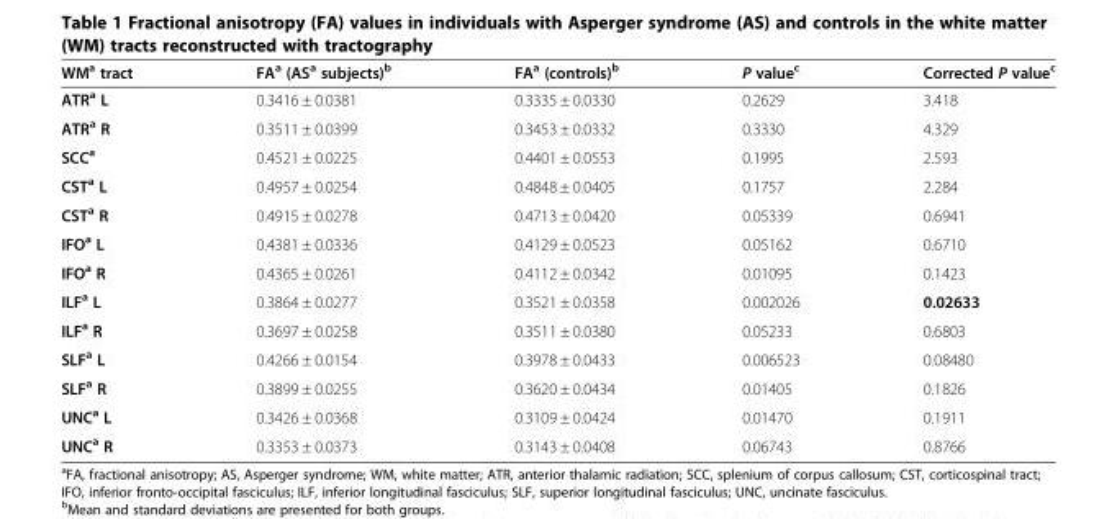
<table><thead><tr><td>WM<sup>a</sup> tract</td><td>FA<sup>a</sup> (AS<sup>a</sup> subjects)<sup>b</sup></td><td>FA<sup>a</sup> (controls)<sup>b</sup></td><td>P value<sup>c</sup></td><td>Corrected P value<sup>c</sup></td></tr></thead><tbody><tr><td>ATR<sup>a</sup> L</td><td>0.3416 ± 0.0381</td><td>0.3335 ± 0.0330</td><td>0.2629</td><td>3.418</td></tr><tr><td>ATR<sup>a</sup> R</td><td>0.3511 ± 0.0399</td><td>0.3453 ± 0.0332</td><td>0.3330</td><td>4.329</td></tr><tr><td>SCC<sup>a</sup></td><td>0.4521 ± 0.0225</td><td>0.4401 ± 0.0553</td><td>0.1995</td><td>2.593</td></tr><tr><td>CST<sup>a</sup> L</td><td>0.4957 ± 0.0254</td><td>0.4848 ± 0.0405</td><td>0.1757</td><td>2.284</td></tr><tr><td>CST<sup>a</sup> R</td><td>0.4915 ± 0.0278</td><td>0.4713 ± 0.0420</td><td>0.05339</td><td>0.6941</td></tr><tr><td>IFO<sup>a</sup> L</td><td>0.4381 ± 0.0336</td><td>0.4129 ± 0.0523</td><td>0.05162</td><td>0.6710</td></tr><tr><td>IFO<sup>a</sup> R</td><td>0.4365 ± 0.0261</td><td>0.4112 ± 0.0342</td><td>0.01095</td><td>0.1423</td></tr><tr><td>ILF<sup>a</sup> L</td><td>0.3864 ± 0.0277</td><td>0.3521 ± 0.0358</td><td>0.002026</td><td>0.02633</td></tr><tr><td>ILF<sup>a</sup> R</td><td>0.3697 ± 0.0258</td><td>0.3511 ± 0.0380</td><td>0.05233</td><td>0.6803</td></tr><tr><td>SLF<sup>a</sup> L</td><td>0.4266 ± 0.0154</td><td>0.3978 ± 0.0433</td><td>0.006523</td><td>0.08480</td></tr><tr><td>SLF<sup>a</sup> R</td><td>0.3899 ± 0.0255</td><td>0.3620 ± 0.0434</td><td>0.01405</td><td>0.1826</td></tr><tr><td>UNC<sup>a</sup> L</td><td>0.3426 ± 0.0368</td><td>0.3109 ± 0.0424</td><td>0.01470</td><td>0.1911</td></tr><tr><td>UNC<sup>a</sup> R</td><td>0.3353 ± 0.0373</td><td>0.3143 ± 0.0408</td><td>0.06743</td><td>0.8766</td></tr></tbody></table>